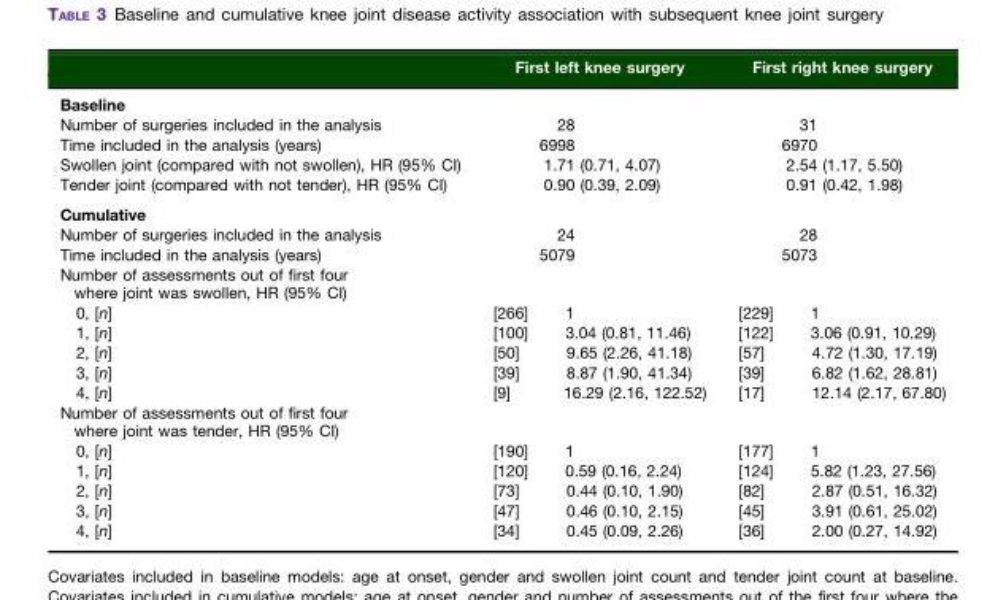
<table><thead><tr><td></td><td>First left knee surgery</td><td>First right knee surgery</td></tr></thead><tbody><tr><td colspan="3">Baseline</td></tr><tr><td>Number of surgeries included in the analysis</td><td>28</td><td>31</td></tr><tr><td>Time included in the analysis (years)</td><td>6998</td><td>6970</td></tr><tr><td>Swollen joint (compared with not swollen), HR (95% CI)</td><td>1.71 (0.71, 4.07)</td><td>2.54 (1.17, 5.50)</td></tr><tr><td>Tender joint (compared with not tender), HR (95% CI)</td><td>0.90 (0.39, 2.09)</td><td>0.91 (0.42, 1.98)</td></tr><tr><td colspan="3">Cumulative</td></tr><tr><td>Number of surgeries included in the analysis</td><td>24</td><td>28</td></tr><tr><td>Time included in the analysis (years)</td><td>5079</td><td>5073</td></tr><tr><td colspan="3">Number of assessments out of first four where joint was swollen, HR (95% CI)</td></tr><tr><td>0, [n]</td><td>[266] 1</td><td>[229] 1</td></tr><tr><td>1, [n]</td><td>[100] 3.04 (0.81, 11.46)</td><td>[122] 3.06 (0.91, 10.29)</td></tr><tr><td>2, [n]</td><td>[50] 9.65 (2.26, 41.18)</td><td>[57] 4.72 (1.30, 17.19)</td></tr><tr><td>3, [n]</td><td>[39] 8.87 (1.90, 41.34)</td><td>[39] 6.82 (1.62, 28.81)</td></tr><tr><td>4, [n]</td><td>[9] 16.29 (2.16, 122.52)</td><td>[17] 12.14 (2.17, 67.80)</td></tr><tr><td colspan="3">Number of assessments out of first four where joint was tender, HR (95% CI)</td></tr><tr><td>0, [n]</td><td>[190] 1</td><td>[177] 1</td></tr><tr><td>1, [n]</td><td>[120] 0.59 (0.16, 2.24)</td><td>[124] 5.82 (1.23, 27.56)</td></tr><tr><td>2, [n]</td><td>[73] 0.44 (0.10, 1.90)</td><td>[82] 2.87 (0.51, 16.32)</td></tr><tr><td>3, [n]</td><td>[47] 0.46 (0.10, 2.15)</td><td>[45] 3.91 (0.61, 25.02)</td></tr><tr><td>4, [n]</td><td>[34] 0.45 (0.09, 2.26)</td><td>[36] 2.00 (0.27, 14.92)</td></tr></tbody></table>